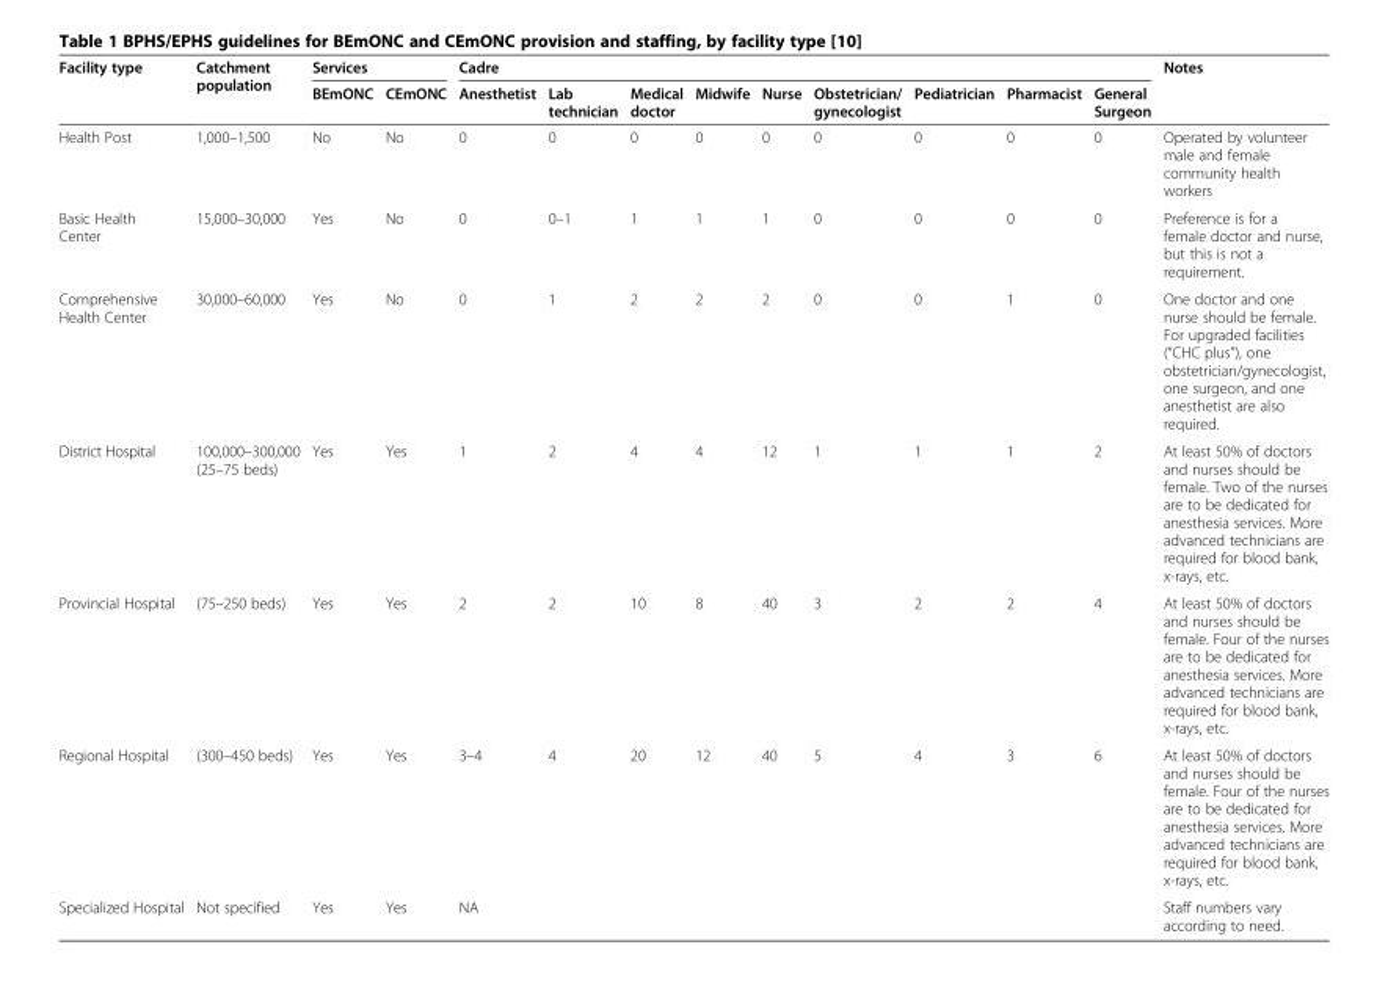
<table><thead><tr><td rowspan="2">Facility type</td><td rowspan="2">Catchment population</td><td colspan="2">Services</td><td colspan="9">Cadre</td><td rowspan="2">Notes</td></tr><tr><td>BEmONC</td><td>CEmONC</td><td>Anesthetist</td><td>Lab technician</td><td>Medical doctor</td><td>Midwife</td><td>Nurse</td><td>Obstetrician/ gynecologist</td><td>Pediatrician</td><td>Pharmacist</td><td>General Surgeon</td></tr></thead><tbody><tr><td>Health Post</td><td>1,000–1,500</td><td>No</td><td>No</td><td>0</td><td>0</td><td>0</td><td>0</td><td>0</td><td>0</td><td>0</td><td>0</td><td>0</td><td>Operated by volunteer male and female community health workers</td></tr><tr><td>Basic Health Center</td><td>15,000–30,000</td><td>Yes</td><td>No</td><td>0</td><td>0–1</td><td>1</td><td>1</td><td>1</td><td>0</td><td>0</td><td>0</td><td>0</td><td>Preference is for a female doctor and nurse, but this is not a requirement.</td></tr><tr><td>Comprehensive Health Center</td><td>30,000–60,000</td><td>Yes</td><td>No</td><td>0</td><td>1</td><td>2</td><td>2</td><td>2</td><td>0</td><td>0</td><td>1</td><td>0</td><td>One doctor and one nurse should be female. For upgraded facilities (“CHC plus”), one obstetrician/gynecologist, one surgeon, and one anesthetist are also required.</td></tr><tr><td>District Hospital</td><td>100,000–300,000 (25–75 beds)</td><td>Yes</td><td>Yes</td><td>1</td><td>2</td><td>4</td><td>4</td><td>12</td><td>1</td><td>1</td><td>1</td><td>2</td><td>At least 50% of doctors and nurses should be female. Two of the nurses are to be dedicated for anesthesia services. More advanced technicians are required for blood bank, x-rays, etc.</td></tr><tr><td>Provincial Hospital</td><td>(75–250 beds)</td><td>Yes</td><td>Yes</td><td>2</td><td>2</td><td>10</td><td>8</td><td>40</td><td>3</td><td>2</td><td>2</td><td>4</td><td>At least 50% of doctors and nurses should be female. Four of the nurses are to be dedicated for anesthesia services. More advanced technicians are required for blood bank, x-rays, etc.</td></tr><tr><td>Regional Hospital</td><td>(300–450 beds)</td><td>Yes</td><td>Yes</td><td>3–4</td><td>4</td><td>20</td><td>12</td><td>40</td><td>5</td><td>4</td><td>3</td><td>6</td><td>At least 50% of doctors and nurses should be female. Four of the nurses are to be dedicated for anesthesia services. More advanced technicians are required for blood bank, x-rays, etc.</td></tr><tr><td>Specialized Hospital</td><td>Not specified</td><td>Yes</td><td>Yes</td><td colspan="9">NA</td><td>Staff numbers vary according to need.</td></tr></tbody></table>